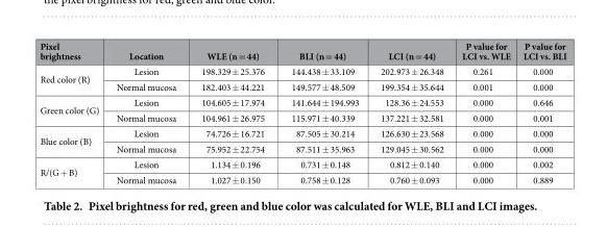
<table><thead><tr><td>Pixel brightness</td><td>Location</td><td>WLE (n = 44)</td><td>BLI (n = 44)</td><td>LCI (n = 44)</td><td>P value for LCI vs. WLE</td><td>P value for LCI vs. BLI</td></tr></thead><tbody><tr><td rowspan="2">Red color (R)</td><td>Lesion</td><td>198.329 ± 25.376</td><td>144.438 ± 33.109</td><td>202.973 ± 26.348</td><td>0.261</td><td>0.000</td></tr><tr><td>Normal mucosa</td><td>182.403 ± 44.221</td><td>149.577 ± 48.509</td><td>199.354 ± 35.644</td><td>0.001</td><td>0.000</td></tr><tr><td rowspan="2">Green color (G)</td><td>Lesion</td><td>104.605 ± 17.974</td><td>141.644 ± 194.993</td><td>128.36 ± 24.553</td><td>0.000</td><td>0.646</td></tr><tr><td>Normal mucosa</td><td>104.961 ± 26.975</td><td>115.971 ± 40.339</td><td>137.221 ± 32.581</td><td>0.000</td><td>0.001</td></tr><tr><td rowspan="2">Blue color (B)</td><td>Lesion</td><td>74.726 ± 16.721</td><td>87.505 ± 30.214</td><td>126.630 ± 23.568</td><td>0.000</td><td>0.000</td></tr><tr><td>Normal mucosa</td><td>75.952 ± 22.754</td><td>87.511 ± 35.963</td><td>129.045 ± 30.562</td><td>0.000</td><td>0.000</td></tr><tr><td rowspan="2">R/(G + B)</td><td>Lesion</td><td>1.134 ± 0.196</td><td>0.731 ± 0.148</td><td>0.812 ± 0.140</td><td>0.000</td><td>0.002</td></tr><tr><td>Normal mucosa</td><td>1.027 ± 0.150</td><td>0.758 ± 0.128</td><td>0.760 ± 0.093</td><td>0.000</td><td>0.889</td></tr></tbody></table>